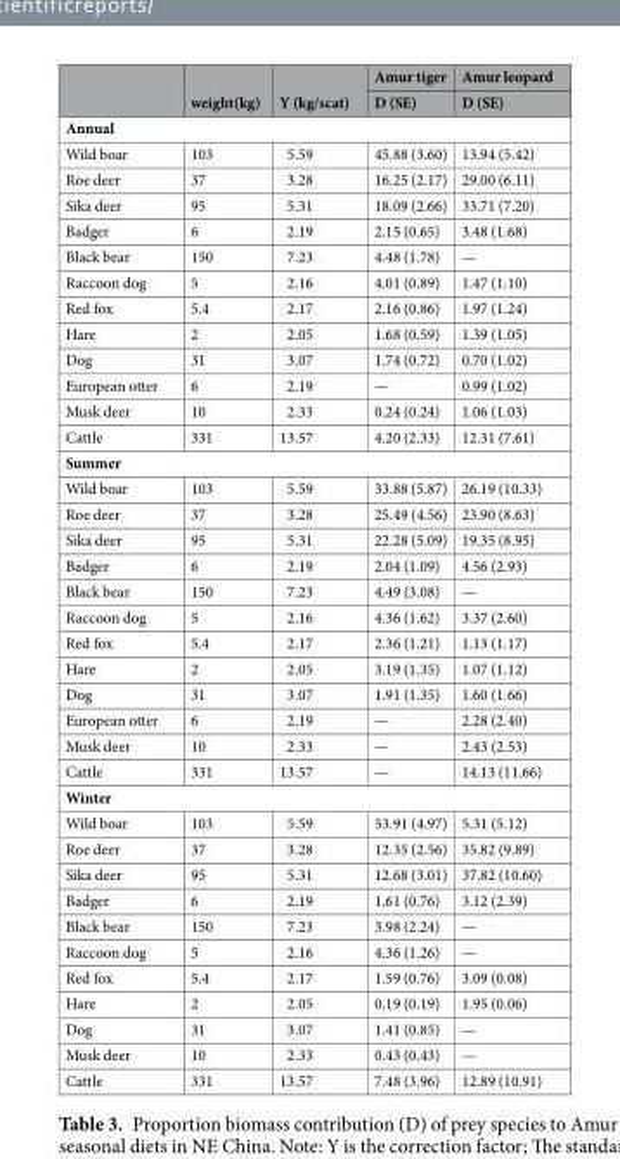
<table><thead><tr><td rowspan="2"></td><td rowspan="2">weight(kg)</td><td rowspan="2">Y (kg/scat)</td><td rowspan="2">Amur tiger D (SE)</td><td rowspan="2">Amur leopard D (SE)</td></tr><tr></tr></thead><tbody><tr><td colspan="5">Annual</td></tr><tr><td>Wild boar</td><td>103</td><td>5.59</td><td>45.88 (3.60)</td><td>13.94 (5.42)</td></tr><tr><td>Roe deer</td><td>37</td><td>3.28</td><td>16.25 (2.17)</td><td>29.00 (6.11)</td></tr><tr><td>Sika deer</td><td>95</td><td>5.31</td><td>18.09 (2.66)</td><td>33.71 (7.20)</td></tr><tr><td>Badger</td><td>6</td><td>2.19</td><td>2.15 (0.65)</td><td>3.48 (1.68)</td></tr><tr><td>Black bear</td><td>150</td><td>7.23</td><td>4.48 (1.78)</td><td>—</td></tr><tr><td>Raccoon dog</td><td>5</td><td>2.16</td><td>4.01 (0.89)</td><td>1.47 (1.10)</td></tr><tr><td>Red fox</td><td>5.4</td><td>2.17</td><td>2.16 (0.86)</td><td>1.97 (1.24)</td></tr><tr><td>Hare</td><td>2</td><td>2.05</td><td>1.68 (0.59)</td><td>1.39 (1.05)</td></tr><tr><td>Dog</td><td>31</td><td>3.07</td><td>1.74 (0.72)</td><td>0.70 (1.02)</td></tr><tr><td>European otter</td><td>6</td><td>2.19</td><td>—</td><td>0.99 (1.02)</td></tr><tr><td>Musk deer</td><td>10</td><td>2.33</td><td>0.24 (0.24)</td><td>1.06 (1.03)</td></tr><tr><td>Cattle</td><td>331</td><td>13.57</td><td>4.20 (2.33)</td><td>12.31 (7.61)</td></tr><tr><td colspan="5">Summer</td></tr><tr><td>Wild boar</td><td>103</td><td>5.59</td><td>33.88 (5.87)</td><td>26.19 (10.33)</td></tr><tr><td>Roe deer</td><td>37</td><td>3.28</td><td>25.49 (4.56)</td><td>23.90 (8.63)</td></tr><tr><td>Sika deer</td><td>95</td><td>5.31</td><td>22.28 (5.09)</td><td>19.35 (8.95)</td></tr><tr><td>Badger</td><td>6</td><td>2.19</td><td>2.04 (1.09)</td><td>4.56 (2.93)</td></tr><tr><td>Black bear</td><td>150</td><td>7.23</td><td>4.49 (3.08)</td><td>—</td></tr><tr><td>Raccoon dog</td><td>5</td><td>2.16</td><td>4.36 (1.62)</td><td>3.37 (2.60)</td></tr><tr><td>Red fox</td><td>5.4</td><td>2.17</td><td>2.36 (1.21)</td><td>1.13 (1.17)</td></tr><tr><td>Hare</td><td>2</td><td>2.05</td><td>3.19 (1.35)</td><td>1.07 (1.12)</td></tr><tr><td>Dog</td><td>31</td><td>3.07</td><td>1.91 (1.35)</td><td>1.60 (1.66)</td></tr><tr><td>European otter</td><td>6</td><td>2.19</td><td>—</td><td>2.28 (2.40)</td></tr><tr><td>Musk deer</td><td>10</td><td>2.33</td><td>—</td><td>2.43 (2.53)</td></tr><tr><td>Cattle</td><td>331</td><td>13.57</td><td>—</td><td>14.13 (11.66)</td></tr><tr><td colspan="5">Winter</td></tr><tr><td>Wild boar</td><td>103</td><td>5.59</td><td>53.91 (4.97)</td><td>5.31 (5.12)</td></tr><tr><td>Roe deer</td><td>37</td><td>3.28</td><td>12.35 (2.56)</td><td>35.82 (9.89)</td></tr><tr><td>Sika deer</td><td>95</td><td>5.31</td><td>12.68 (3.01)</td><td>37.82 (10.60)</td></tr><tr><td>Badger</td><td>6</td><td>2.19</td><td>1.61 (0.76)</td><td>3.12 (2.39)</td></tr><tr><td>Black bear</td><td>150</td><td>7.23</td><td>3.98 (2.24)</td><td>—</td></tr><tr><td>Raccoon dog</td><td>5</td><td>2.16</td><td>4.36 (1.26)</td><td>—</td></tr><tr><td>Red fox</td><td>5.4</td><td>2.17</td><td>1.59 (0.76)</td><td>3.09 (0.08)</td></tr><tr><td>Hare</td><td>2</td><td>2.05</td><td>0.19 (0.19)</td><td>1.95 (0.06)</td></tr><tr><td>Dog</td><td>31</td><td>3.07</td><td>1.41 (0.85)</td><td>—</td></tr><tr><td>Musk deer</td><td>10</td><td>2.33</td><td>0.43 (0.43)</td><td>—</td></tr><tr><td>Cattle</td><td>331</td><td>13.57</td><td>7.48 (3.96)</td><td>12.89 (10.91)</td></tr></tbody></table>